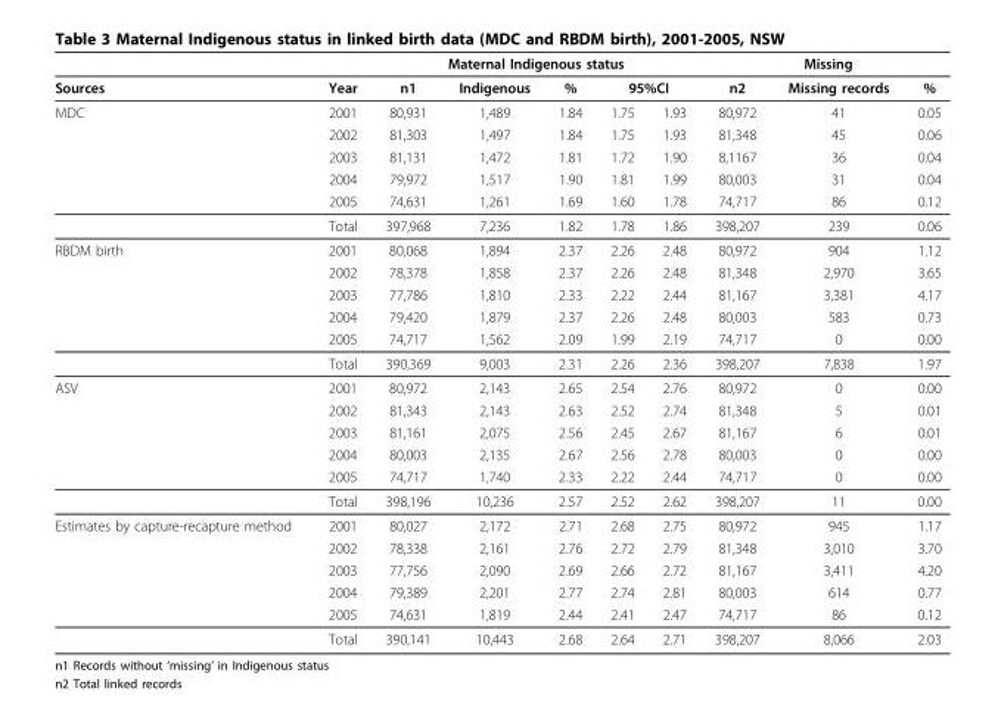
<table><thead><tr><td rowspan="3">Sources MDC</td><td rowspan="3">Year 2001</td><td colspan="5">Maternal Indigenous status</td><td colspan="3">Missing</td></tr><tr><td rowspan="2">n1 80,931</td><td rowspan="2">Indigenous 1,489</td><td rowspan="2">% 1.84</td><td colspan="2">95%CI</td><td rowspan="2">n2 80,972</td><td rowspan="2">Missing records 41</td><td rowspan="2">% 0.05</td></tr><tr><td>1.75</td><td>1.93</td></tr></thead><tbody><tr><td></td><td>2002</td><td>81,303</td><td>1,497</td><td>1.84</td><td>1.75</td><td>1.93</td><td>81,348</td><td>45</td><td>0.06</td></tr><tr><td></td><td>2003</td><td>81,131</td><td>1,472</td><td>1.81</td><td>1.72</td><td>1.90</td><td>8,1167</td><td>36</td><td>0.04</td></tr><tr><td></td><td>2004</td><td>79,972</td><td>1,517</td><td>1.90</td><td>1.81</td><td>1.99</td><td>80,003</td><td>31</td><td>0.04</td></tr><tr><td></td><td>2005</td><td>74,631</td><td>1,261</td><td>1.69</td><td>1.60</td><td>1.78</td><td>74,717</td><td>86</td><td>0.12</td></tr><tr><td></td><td>Total</td><td>397,968</td><td>7,236</td><td>1.82</td><td>1.78</td><td>1.86</td><td>398,207</td><td>239</td><td>0.06</td></tr><tr><td rowspan="6">RBDM birth</td><td>2001</td><td>80,068</td><td>1,894</td><td>2.37</td><td>2.26</td><td>2.48</td><td>80,972</td><td>904</td><td>1.12</td></tr><tr><td>2002</td><td>78,378</td><td>1,858</td><td>2.37</td><td>2.26</td><td>2.48</td><td>81,348</td><td>2,970</td><td>3.65</td></tr><tr><td>2003</td><td>77,786</td><td>1,810</td><td>2.33</td><td>2.22</td><td>2.44</td><td>81,167</td><td>3,381</td><td>4.17</td></tr><tr><td>2004</td><td>79,420</td><td>1,879</td><td>2.37</td><td>2.26</td><td>2.48</td><td>80,003</td><td>583</td><td>0.73</td></tr><tr><td>2005</td><td>74,717</td><td>1,562</td><td>2.09</td><td>1.99</td><td>2.19</td><td>74,717</td><td>0</td><td>0.00</td></tr><tr><td>Total</td><td>390,369</td><td>9,003</td><td>2.31</td><td>2.26</td><td>2.36</td><td>398,207</td><td>7,838</td><td>1.97</td></tr><tr><td rowspan="6">ASV</td><td>2001</td><td>80,972</td><td>2,143</td><td>2.65</td><td>2.54</td><td>2.76</td><td>80,972</td><td>0</td><td>0.00</td></tr><tr><td>2002</td><td>81,343</td><td>2,143</td><td>2.63</td><td>2.52</td><td>2.74</td><td>81,348</td><td>5</td><td>0.01</td></tr><tr><td>2003</td><td>81,161</td><td>2,075</td><td>2.56</td><td>2.45</td><td>2.67</td><td>81,167</td><td>6</td><td>0.01</td></tr><tr><td>2004</td><td>80,003</td><td>2,135</td><td>2.67</td><td>2.56</td><td>2.78</td><td>80,003</td><td>0</td><td>0.00</td></tr><tr><td>2005</td><td>74,717</td><td>1,740</td><td>2.33</td><td>2.22</td><td>2.44</td><td>74,717</td><td>0</td><td>0.00</td></tr><tr><td>Total</td><td>398,196</td><td>10,236</td><td>2.57</td><td>2.52</td><td>2.62</td><td>398,207</td><td>11</td><td>0.00</td></tr><tr><td rowspan="6">Estimates by capture-recapture method</td><td>2001</td><td>80,027</td><td>2,172</td><td>2.71</td><td>2.68</td><td>2.75</td><td>80,972</td><td>945</td><td>1.17</td></tr><tr><td>2002</td><td>78,338</td><td>2,161</td><td>2.76</td><td>2.72</td><td>2.79</td><td>81,348</td><td>3,010</td><td>3.70</td></tr><tr><td>2003</td><td>77,756</td><td>2,090</td><td>2.69</td><td>2.66</td><td>2.72</td><td>81,167</td><td>3,411</td><td>4.20</td></tr><tr><td>2004</td><td>79,389</td><td>2,201</td><td>2.77</td><td>2.74</td><td>2.81</td><td>80,003</td><td>614</td><td>0.77</td></tr><tr><td>2005</td><td>74,631</td><td>1,819</td><td>2.44</td><td>2.41</td><td>2.47</td><td>74,717</td><td>86</td><td>0.12</td></tr><tr><td>Total</td><td>390,141</td><td>10,443</td><td>2.68</td><td>2.64</td><td>2.71</td><td>398,207</td><td>8,066</td><td>2.03</td></tr></tbody></table>